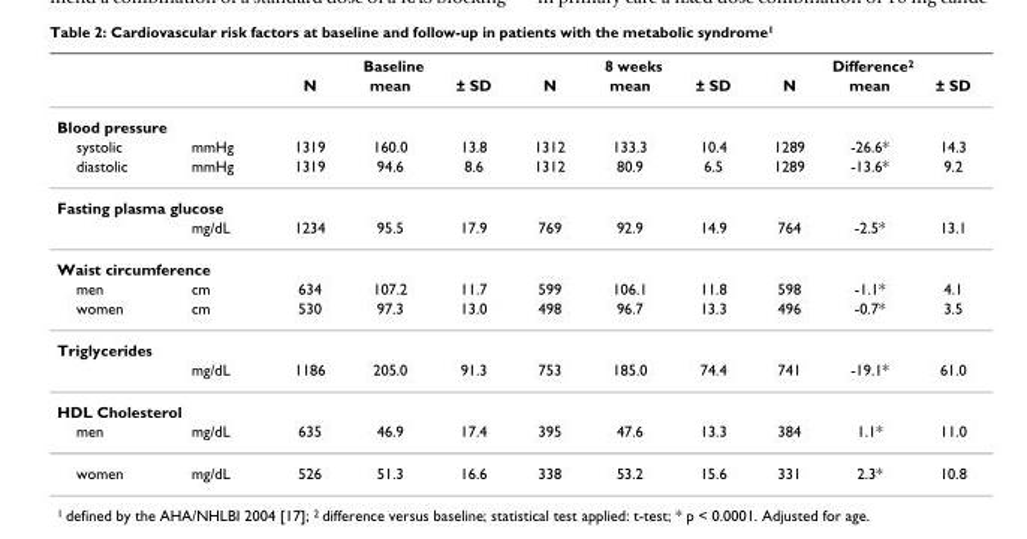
<table><thead><tr><td rowspan="2"></td><td rowspan="2"></td><td colspan="3">Baseline</td><td colspan="3">8 weeks</td><td colspan="3">Difference<sup>2</sup></td></tr><tr><td>N</td><td>mean</td><td>± SD</td><td>N</td><td>mean</td><td>± SD</td><td>N</td><td>mean</td><td>± SD</td></tr></thead><tbody><tr><td colspan="11">Blood pressure</td></tr><tr><td>systolic</td><td>mmHg</td><td>1319</td><td>160.0</td><td>13.8</td><td>1312</td><td>133.3</td><td>10.4</td><td>1289</td><td>-26.6*</td><td>14.3</td></tr><tr><td>diastolic</td><td>mmHg</td><td>1319</td><td>94.6</td><td>8.6</td><td>1312</td><td>80.9</td><td>6.5</td><td>1289</td><td>-13.6*</td><td>9.2</td></tr><tr><td colspan="11">Fasting plasma glucose</td></tr><tr><td></td><td>mg/dL</td><td>1234</td><td>95.5</td><td>17.9</td><td>769</td><td>92.9</td><td>14.9</td><td>764</td><td>-2.5*</td><td>13.1</td></tr><tr><td colspan="11">Waist circumference</td></tr><tr><td>men</td><td>cm</td><td>634</td><td>107.2</td><td>11.7</td><td>599</td><td>106.1</td><td>11.8</td><td>598</td><td>-1.1*</td><td>4.1</td></tr><tr><td>women</td><td>cm</td><td>530</td><td>97.3</td><td>13.0</td><td>498</td><td>96.7</td><td>13.3</td><td>496</td><td>-0.7*</td><td>3.5</td></tr><tr><td colspan="11">Triglycerides</td></tr><tr><td></td><td>mg/dL</td><td>1186</td><td>205.0</td><td>91.3</td><td>753</td><td>185.0</td><td>74.4</td><td>741</td><td>-19.1*</td><td>61.0</td></tr><tr><td colspan="11">HDL Cholesterol</td></tr><tr><td>men</td><td>mg/dL</td><td>635</td><td>46.9</td><td>17.4</td><td>395</td><td>47.6</td><td>13.3</td><td>384</td><td>1.1*</td><td>11.0</td></tr><tr><td>women</td><td>mg/dL</td><td>526</td><td>51.3</td><td>16.6</td><td>338</td><td>53.2</td><td>15.6</td><td>331</td><td>2.3*</td><td>10.8</td></tr></tbody></table>